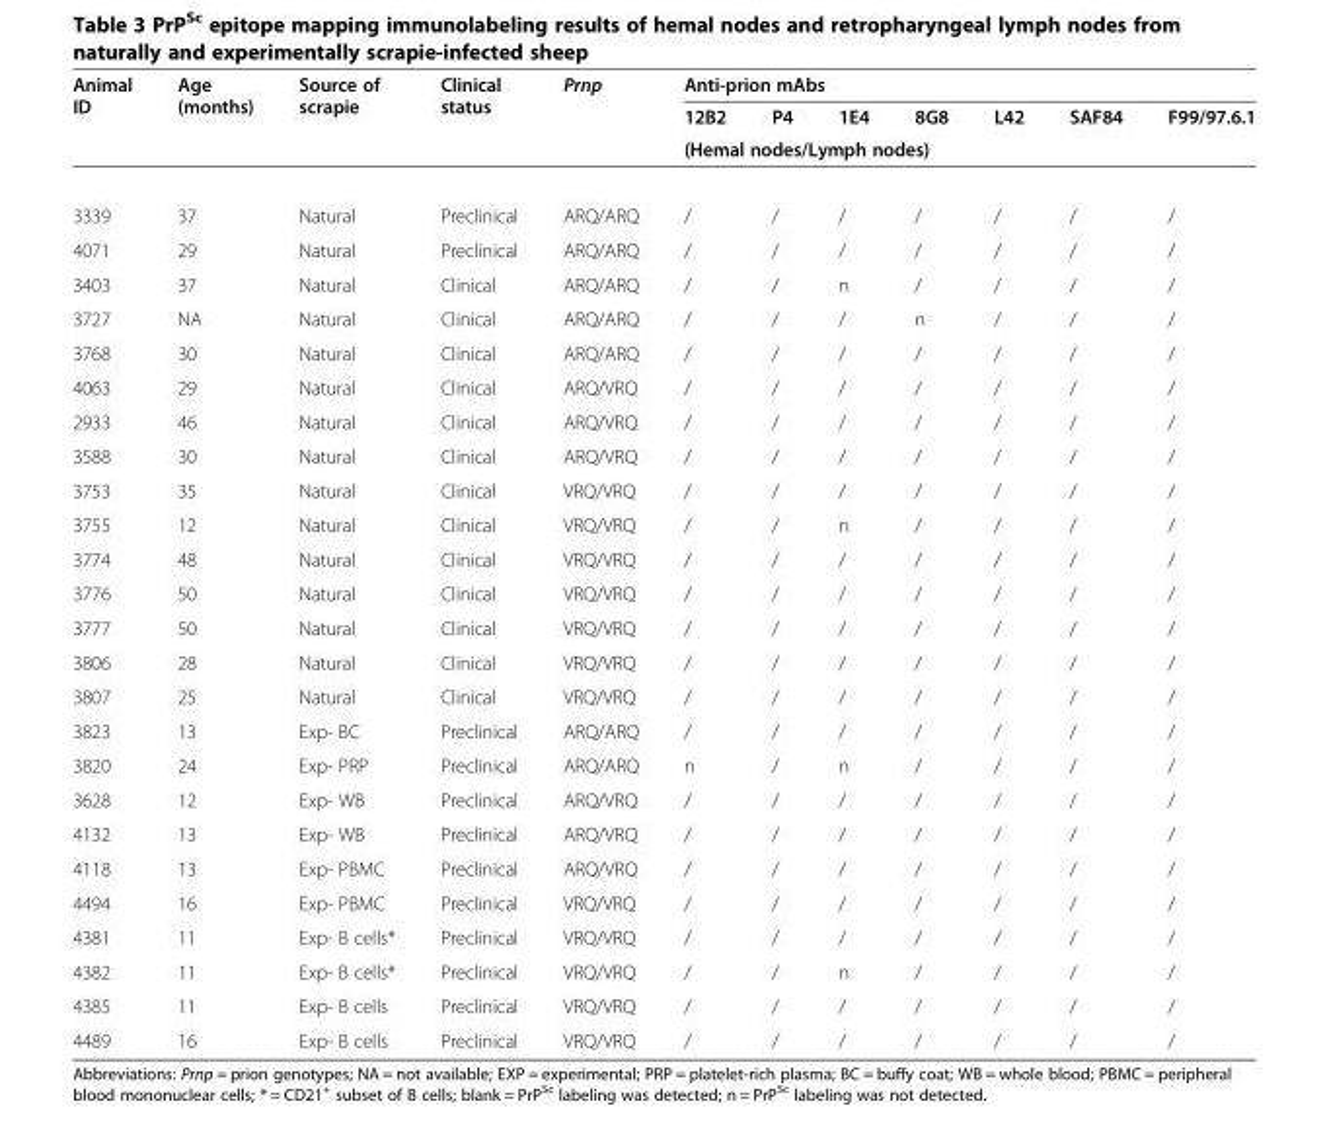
<table><thead><tr><td rowspan="3">Animal ID</td><td rowspan="3">Age (months)</td><td rowspan="3">Source of scrapie</td><td rowspan="3">Clinical status</td><td rowspan="3">Prnp</td><td colspan="7">Anti-prion mAbs</td></tr><tr><td>12B2</td><td>P4</td><td>1E4</td><td>8G8</td><td>L42</td><td>SAF84</td><td>F99/97.6.1</td></tr><tr><td colspan="7">(Hemal nodes/Lymph nodes)</td></tr></thead><tbody><tr><td>3339</td><td>37</td><td>Natural</td><td>Preclinical</td><td>ARQ/ARQ</td><td>/</td><td>/</td><td>/</td><td>/</td><td>/</td><td>/</td><td>/</td></tr><tr><td>4071</td><td>29</td><td>Natural</td><td>Preclinical</td><td>ARQ/ARQ</td><td>/</td><td>/</td><td>/</td><td>/</td><td>/</td><td>/</td><td>/</td></tr><tr><td>3403</td><td>37</td><td>Natural</td><td>Clinical</td><td>ARQ/ARQ</td><td>/</td><td>/</td><td>n</td><td>/</td><td>/</td><td>/</td><td>/</td></tr><tr><td>3727</td><td>NA</td><td>Natural</td><td>Clinical</td><td>ARQ/ARQ</td><td>/</td><td>/</td><td>/</td><td>n</td><td>/</td><td>/</td><td>/</td></tr><tr><td>3768</td><td>30</td><td>Natural</td><td>Clinical</td><td>ARQ/ARQ</td><td>/</td><td>/</td><td>/</td><td>/</td><td>/</td><td>/</td><td>/</td></tr><tr><td>4063</td><td>29</td><td>Natural</td><td>Clinical</td><td>ARQ/VRQ</td><td>/</td><td>/</td><td>/</td><td>/</td><td>/</td><td>/</td><td>/</td></tr><tr><td>2933</td><td>46</td><td>Natural</td><td>Clinical</td><td>ARQ/VRQ</td><td>/</td><td>/</td><td>/</td><td>/</td><td>/</td><td>/</td><td>/</td></tr><tr><td>3588</td><td>30</td><td>Natural</td><td>Clinical</td><td>ARQ/VRQ</td><td>/</td><td>/</td><td>/</td><td>/</td><td>/</td><td>/</td><td>/</td></tr><tr><td>3753</td><td>35</td><td>Natural</td><td>Clinical</td><td>VRQ/VRQ</td><td>/</td><td>/</td><td>/</td><td>/</td><td>/</td><td>/</td><td>/</td></tr><tr><td>3755</td><td>12</td><td>Natural</td><td>Clinical</td><td>VRQ/VRQ</td><td>/</td><td>/</td><td>n</td><td>/</td><td>/</td><td>/</td><td>/</td></tr><tr><td>3774</td><td>48</td><td>Natural</td><td>Clinical</td><td>VRQ/VRQ</td><td>/</td><td>/</td><td>/</td><td>/</td><td>/</td><td>/</td><td>/</td></tr><tr><td>3776</td><td>50</td><td>Natural</td><td>Clinical</td><td>VRQ/VRQ</td><td>/</td><td>/</td><td>/</td><td>/</td><td>/</td><td>/</td><td>/</td></tr><tr><td>3777</td><td>50</td><td>Natural</td><td>Clinical</td><td>VRQ/VRQ</td><td>/</td><td>/</td><td>/</td><td>/</td><td>/</td><td>/</td><td>/</td></tr><tr><td>3806</td><td>28</td><td>Natural</td><td>Clinical</td><td>VRQ/VRQ</td><td>/</td><td>/</td><td>/</td><td>/</td><td>/</td><td>/</td><td>/</td></tr><tr><td>3807</td><td>25</td><td>Natural</td><td>Clinical</td><td>VRQ/VRQ</td><td>/</td><td>/</td><td>/</td><td>/</td><td>/</td><td>/</td><td>/</td></tr><tr><td>3823</td><td>13</td><td>Exp- BC</td><td>Preclinical</td><td>ARQ/ARQ</td><td>/</td><td>/</td><td>/</td><td>/</td><td>/</td><td>/</td><td>/</td></tr><tr><td>3820</td><td>24</td><td>Exp- PRP</td><td>Preclinical</td><td>ARQ/ARQ</td><td>n</td><td>/</td><td>n</td><td>/</td><td>/</td><td>/</td><td>/</td></tr><tr><td>3628</td><td>12</td><td>Exp- WB</td><td>Preclinical</td><td>ARQ/VRQ</td><td>/</td><td>/</td><td>/</td><td>/</td><td>/</td><td>/</td><td>/</td></tr><tr><td>4132</td><td>13</td><td>Exp- WB</td><td>Preclinical</td><td>ARQ/VRQ</td><td>/</td><td>/</td><td>/</td><td>/</td><td>/</td><td>/</td><td>/</td></tr><tr><td>4118</td><td>13</td><td>Exp- PBMC</td><td>Preclinical</td><td>ARQ/VRQ</td><td>/</td><td>/</td><td>/</td><td>/</td><td>/</td><td>/</td><td>/</td></tr><tr><td>4494</td><td>16</td><td>Exp- PBMC</td><td>Preclinical</td><td>VRQ/VRQ</td><td>/</td><td>/</td><td>/</td><td>/</td><td>/</td><td>/</td><td>/</td></tr><tr><td>4381</td><td>11</td><td>Exp- B cells*</td><td>Preclinical</td><td>VRQ/VRQ</td><td>/</td><td>/</td><td>/</td><td>/</td><td>/</td><td>/</td><td>/</td></tr><tr><td>4382</td><td>11</td><td>Exp- B cells*</td><td>Preclinical</td><td>VRQ/VRQ</td><td>/</td><td>/</td><td>n</td><td>/</td><td>/</td><td>/</td><td>/</td></tr><tr><td>4385</td><td>11</td><td>Exp- B cells</td><td>Preclinical</td><td>VRQ/VRQ</td><td>/</td><td>/</td><td>/</td><td>/</td><td>/</td><td>/</td><td>/</td></tr><tr><td>4489</td><td>16</td><td>Exp- B cells</td><td>Preclinical</td><td>VRQ/VRQ</td><td>/</td><td>/</td><td>/</td><td>/</td><td>/</td><td>/</td><td>/</td></tr></tbody></table>